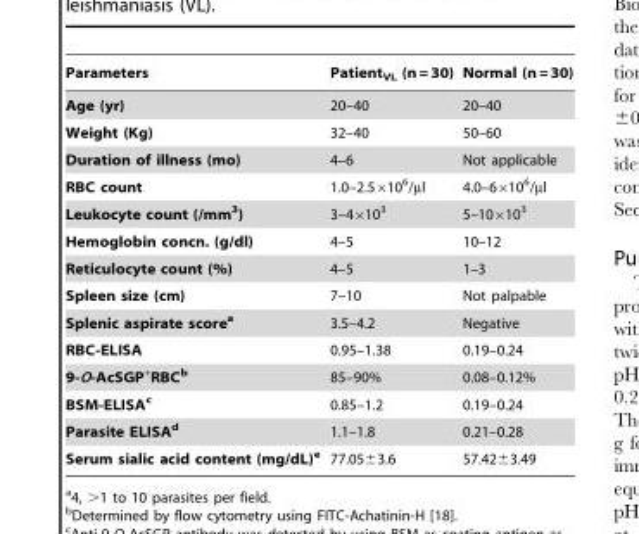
<table><thead><tr><td>Parameters</td><td>Patient<sub>VL</sub> (n = 30)</td><td>Normal (n = 30)</td></tr></thead><tbody><tr><td>Age (yr)</td><td>20–40</td><td>20–40</td></tr><tr><td>Weight (Kg)</td><td>32–40</td><td>50–60</td></tr><tr><td>Duration of illness (mo)</td><td>4–6</td><td>Not applicable</td></tr><tr><td>RBC count</td><td>1.0–2.5×10<sup>6</sup>/µl</td><td>4.0–6×10<sup>6</sup>/µl</td></tr><tr><td>Leukocyte count (/mm<sup>3</sup>)</td><td>3–4×10<sup>3</sup></td><td>5–10×10<sup>3</sup></td></tr><tr><td>Hemoglobin concn. (g/dl)</td><td>4–5</td><td>10–12</td></tr><tr><td>Reticulocyte count (%)</td><td>4–5</td><td>1–3</td></tr><tr><td>Spleen size (cm)</td><td>7–10</td><td>Not palpable</td></tr><tr><td>Splenic aspirate scorea</td><td>3.5–4.2</td><td>Negative</td></tr><tr><td>RBC-ELISA</td><td>0.95–1.38</td><td>0.19–0.24</td></tr><tr><td>9-O-AcSGP<sup>+</sup>RBCb</td><td>85–90%</td><td>0.08–0.12%</td></tr><tr><td>BSM-ELISAc</td><td>0.85–1.2</td><td>0.19–0.24</td></tr><tr><td>Parasite ELISAd</td><td>1.1–1.8</td><td>0.21–0.28</td></tr><tr><td>Serum sialic acid content (mg/dL)e</td><td>77.05±3.6</td><td>57.42±3.49</td></tr></tbody></table>